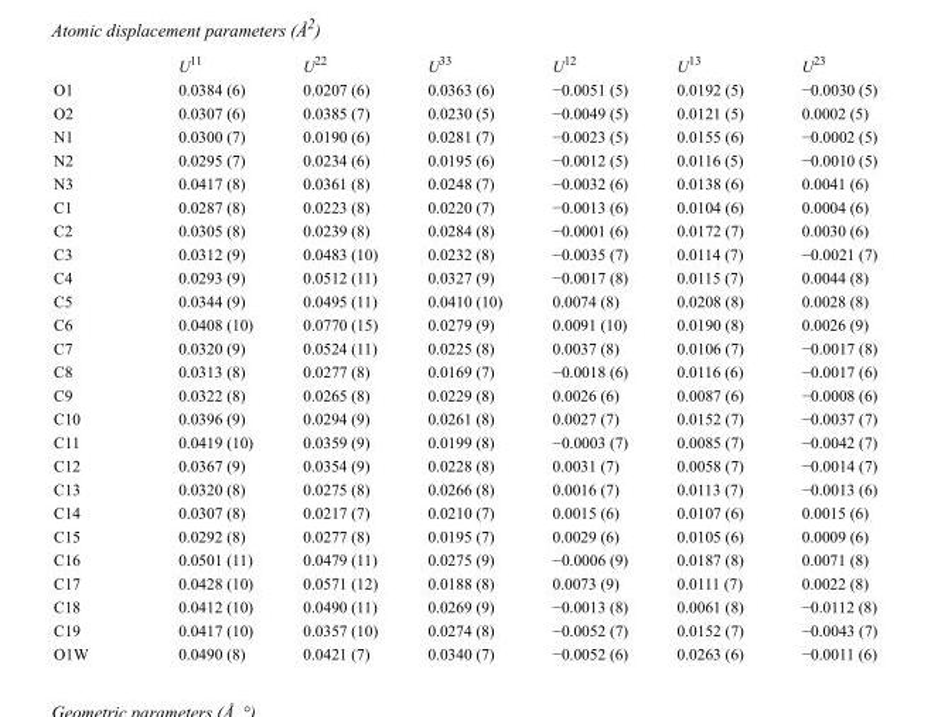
<table><thead><tr><td></td><td>U<sup>11</sup></td><td>U<sup>22</sup></td><td>U<sup>33</sup></td><td>U<sup>12</sup></td><td>U<sup>13</sup></td><td>U<sup>23</sup></td></tr></thead><tbody><tr><td>O1</td><td>0.0384 (6)</td><td>0.0207 (6)</td><td>0.0363 (6)</td><td>−0.0051 (5)</td><td>0.0192 (5)</td><td>−0.0030 (5)</td></tr><tr><td>O2</td><td>0.0307 (6)</td><td>0.0385 (7)</td><td>0.0230 (5)</td><td>−0.0049 (5)</td><td>0.0121 (5)</td><td>0.0002 (5)</td></tr><tr><td>N1</td><td>0.0300 (7)</td><td>0.0190 (6)</td><td>0.0281 (7)</td><td>−0.0023 (5)</td><td>0.0155 (6)</td><td>−0.0002 (5)</td></tr><tr><td>N2</td><td>0.0295 (7)</td><td>0.0234 (6)</td><td>0.0195 (6)</td><td>−0.0012 (5)</td><td>0.0116 (5)</td><td>−0.0010 (5)</td></tr><tr><td>N3</td><td>0.0417 (8)</td><td>0.0361 (8)</td><td>0.0248 (7)</td><td>−0.0032 (6)</td><td>0.0138 (6)</td><td>0.0041 (6)</td></tr><tr><td>C1</td><td>0.0287 (8)</td><td>0.0223 (8)</td><td>0.0220 (7)</td><td>−0.0013 (6)</td><td>0.0104 (6)</td><td>0.0004 (6)</td></tr><tr><td>C2</td><td>0.0305 (8)</td><td>0.0239 (8)</td><td>0.0284 (8)</td><td>−0.0001 (6)</td><td>0.0172 (7)</td><td>0.0030 (6)</td></tr><tr><td>C3</td><td>0.0312 (9)</td><td>0.0483 (10)</td><td>0.0232 (8)</td><td>−0.0035 (7)</td><td>0.0114 (7)</td><td>−0.0021 (7)</td></tr><tr><td>C4</td><td>0.0293 (9)</td><td>0.0512 (11)</td><td>0.0327 (9)</td><td>−0.0017 (8)</td><td>0.0115 (7)</td><td>0.0044 (8)</td></tr><tr><td>C5</td><td>0.0344 (9)</td><td>0.0495 (11)</td><td>0.0410 (10)</td><td>0.0074 (8)</td><td>0.0208 (8)</td><td>0.0028 (8)</td></tr><tr><td>C6</td><td>0.0408 (10)</td><td>0.0770 (15)</td><td>0.0279 (9)</td><td>0.0091 (10)</td><td>0.0190 (8)</td><td>0.0026 (9)</td></tr><tr><td>C7</td><td>0.0320 (9)</td><td>0.0524 (11)</td><td>0.0225 (8)</td><td>0.0037 (8)</td><td>0.0106 (7)</td><td>−0.0017 (8)</td></tr><tr><td>C8</td><td>0.0313 (8)</td><td>0.0277 (8)</td><td>0.0169 (7)</td><td>−0.0018 (6)</td><td>0.0116 (6)</td><td>−0.0017 (6)</td></tr><tr><td>C9</td><td>0.0322 (8)</td><td>0.0265 (8)</td><td>0.0229 (8)</td><td>0.0026 (6)</td><td>0.0087 (6)</td><td>−0.0008 (6)</td></tr><tr><td>C10</td><td>0.0396 (9)</td><td>0.0294 (9)</td><td>0.0261 (8)</td><td>0.0027 (7)</td><td>0.0152 (7)</td><td>−0.0037 (7)</td></tr><tr><td>C11</td><td>0.0419 (10)</td><td>0.0359 (9)</td><td>0.0199 (8)</td><td>−0.0003 (7)</td><td>0.0085 (7)</td><td>−0.0042 (7)</td></tr><tr><td>C12</td><td>0.0367 (9)</td><td>0.0354 (9)</td><td>0.0228 (8)</td><td>0.0031 (7)</td><td>0.0058 (7)</td><td>−0.0014 (7)</td></tr><tr><td>C13</td><td>0.0320 (8)</td><td>0.0275 (8)</td><td>0.0266 (8)</td><td>0.0016 (7)</td><td>0.0113 (7)</td><td>−0.0013 (6)</td></tr><tr><td>C14</td><td>0.0307 (8)</td><td>0.0217 (7)</td><td>0.0210 (7)</td><td>0.0015 (6)</td><td>0.0107 (6)</td><td>0.0015 (6)</td></tr><tr><td>C15</td><td>0.0292 (8)</td><td>0.0277 (8)</td><td>0.0195 (7)</td><td>0.0029 (6)</td><td>0.0105 (6)</td><td>0.0009 (6)</td></tr><tr><td>C16</td><td>0.0501 (11)</td><td>0.0479 (11)</td><td>0.0275 (9)</td><td>−0.0006 (9)</td><td>0.0187 (8)</td><td>0.0071 (8)</td></tr><tr><td>C17</td><td>0.0428 (10)</td><td>0.0571 (12)</td><td>0.0188 (8)</td><td>0.0073 (9)</td><td>0.0111 (7)</td><td>0.0022 (8)</td></tr><tr><td>C18</td><td>0.0412 (10)</td><td>0.0490 (11)</td><td>0.0269 (9)</td><td>−0.0013 (8)</td><td>0.0061 (8)</td><td>−0.0112 (8)</td></tr><tr><td>C19</td><td>0.0417 (10)</td><td>0.0357 (10)</td><td>0.0274 (8)</td><td>−0.0052 (7)</td><td>0.0152 (7)</td><td>−0.0043 (7)</td></tr><tr><td>O1W</td><td>0.0490 (8)</td><td>0.0421 (7)</td><td>0.0340 (7)</td><td>−0.0052 (6)</td><td>0.0263 (6)</td><td>−0.0011 (6)</td></tr></tbody></table>